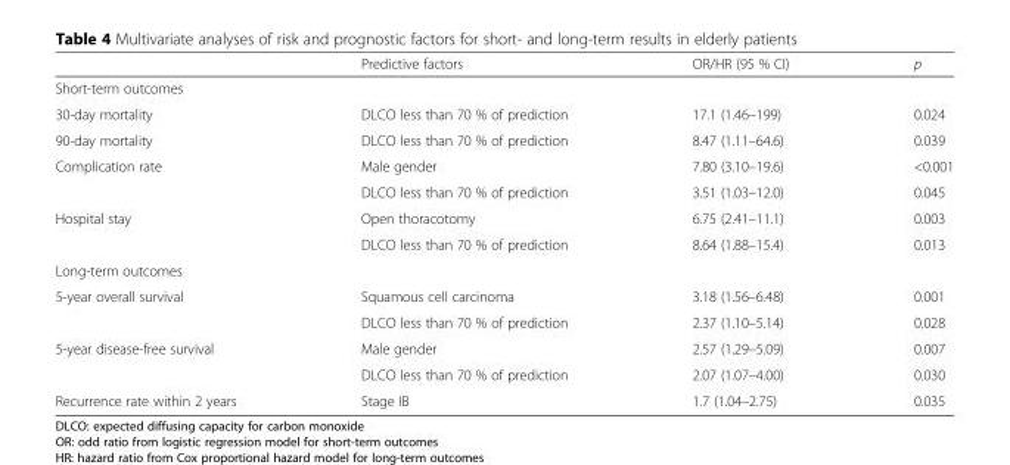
<table><thead><tr><td></td><td>Predictive factors</td><td>OR/HR (95 % CI)</td><td>p</td></tr></thead><tbody><tr><td colspan="4">Short-term outcomes</td></tr><tr><td>30-day mortality</td><td>DLCO less than 70 % of prediction</td><td>17.1 (1.46–199)</td><td>0.024</td></tr><tr><td>90-day mortality</td><td>DLCO less than 70 % of prediction</td><td>8.47 (1.11–64.6)</td><td>0.039</td></tr><tr><td rowspan="2">Complication rate</td><td>Male gender</td><td>7.80 (3.10–19.6)</td><td>&lt;0.001</td></tr><tr><td>DLCO less than 70 % of prediction</td><td>3.51 (1.03–12.0)</td><td>0.045</td></tr><tr><td rowspan="2">Hospital stay</td><td>Open thoracotomy</td><td>6.75 (2.41–11.1)</td><td>0.003</td></tr><tr><td>DLCO less than 70 % of prediction</td><td>8.64 (1.88–15.4)</td><td>0.013</td></tr><tr><td colspan="4">Long-term outcomes</td></tr><tr><td rowspan="2">5-year overall survival</td><td>Squamous cell carcinoma</td><td>3.18 (1.56–6.48)</td><td>0.001</td></tr><tr><td>DLCO less than 70 % of prediction</td><td>2.37 (1.10–5.14)</td><td>0.028</td></tr><tr><td rowspan="2">5-year disease-free survival</td><td>Male gender</td><td>2.57 (1.29–5.09)</td><td>0.007</td></tr><tr><td>DLCO less than 70 % of prediction</td><td>2.07 (1.07–4.00)</td><td>0.030</td></tr><tr><td>Recurrence rate within 2 years</td><td>Stage IB</td><td>1.7 (1.04–2.75)</td><td>0.035</td></tr></tbody></table>